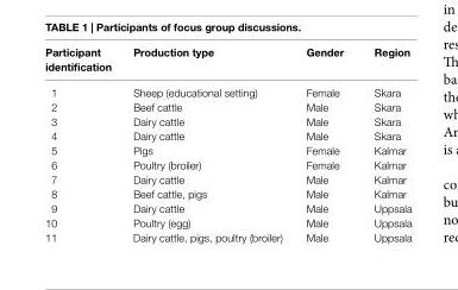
<table><thead><tr><td>Participant identification</td><td>Production type</td><td>gender</td><td>region</td></tr></thead><tbody><tr><td>1</td><td>Sheep (educational setting)</td><td>Female</td><td>Skara</td></tr><tr><td>2</td><td>Beef cattle</td><td>Male</td><td>Skara</td></tr><tr><td>3</td><td>Dairy cattle</td><td>Male</td><td>Skara</td></tr><tr><td>4</td><td>Dairy cattle</td><td>Male</td><td>Skara</td></tr><tr><td>5</td><td>Pigs</td><td>Female</td><td>Kalmar</td></tr><tr><td>6</td><td>Poultry (broiler)</td><td>Female</td><td>Kalmar</td></tr><tr><td>7</td><td>Dairy cattle</td><td>Male</td><td>Kalmar</td></tr><tr><td>8</td><td>Beef cattle, pigs</td><td>Male</td><td>Kalmar</td></tr><tr><td>9</td><td>Dairy cattle</td><td>Male</td><td>Uppsala</td></tr><tr><td>10</td><td>Poultry (egg)</td><td>Male</td><td>Uppsala</td></tr><tr><td>11</td><td>Dairy cattle, pigs, poultry (broiler)</td><td>Male</td><td>Uppsala</td></tr></tbody></table>